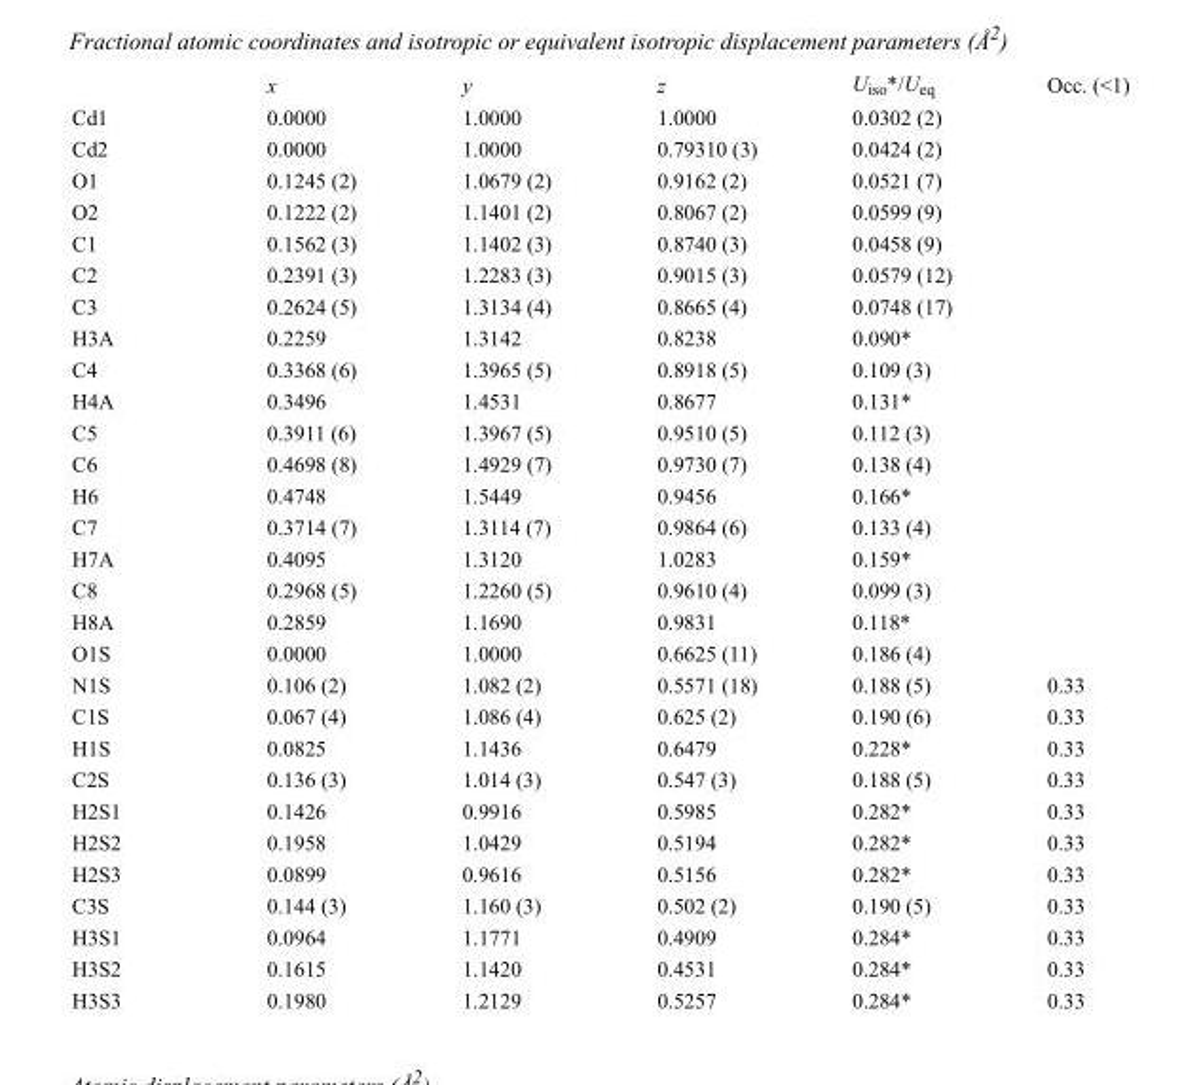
<table><thead><tr><td></td><td>x</td><td>y</td><td>z</td><td>U<sub>iso</sub>*/U<sub>eq</sub></td><td>Occ. (&lt;1)</td></tr></thead><tbody><tr><td>Cd1</td><td>0.0000</td><td>1.0000</td><td>1.0000</td><td>0.0302 (2)</td><td></td></tr><tr><td>Cd2</td><td>0.0000</td><td>1.0000</td><td>0.79310 (3)</td><td>0.0424 (2)</td><td></td></tr><tr><td>O1</td><td>0.1245 (2)</td><td>1.0679 (2)</td><td>0.9162 (2)</td><td>0.0521 (7)</td><td></td></tr><tr><td>O2</td><td>0.1222 (2)</td><td>1.1401 (2)</td><td>0.8067 (2)</td><td>0.0599 (9)</td><td></td></tr><tr><td>C1</td><td>0.1562 (3)</td><td>1.1402 (3)</td><td>0.8740 (3)</td><td>0.0458 (9)</td><td></td></tr><tr><td>C2</td><td>0.2391 (3)</td><td>1.2283 (3)</td><td>0.9015 (3)</td><td>0.0579 (12)</td><td></td></tr><tr><td>C3</td><td>0.2624 (5)</td><td>1.3134 (4)</td><td>0.8665 (4)</td><td>0.0748 (17)</td><td></td></tr><tr><td>H3A</td><td>0.2259</td><td>1.3142</td><td>0.8238</td><td>0.090*</td><td></td></tr><tr><td>C4</td><td>0.3368 (6)</td><td>1.3965 (5)</td><td>0.8918 (5)</td><td>0.109 (3)</td><td></td></tr><tr><td>H4A</td><td>0.3496</td><td>1.4531</td><td>0.8677</td><td>0.131*</td><td></td></tr><tr><td>C5</td><td>0.3911 (6)</td><td>1.3967 (5)</td><td>0.9510 (5)</td><td>0.112 (3)</td><td></td></tr><tr><td>C6</td><td>0.4698 (8)</td><td>1.4929 (7)</td><td>0.9730 (7)</td><td>0.138 (4)</td><td></td></tr><tr><td>H6</td><td>0.4748</td><td>1.5449</td><td>0.9456</td><td>0.166*</td><td></td></tr><tr><td>C7</td><td>0.3714 (7)</td><td>1.3114 (7)</td><td>0.9864 (6)</td><td>0.133 (4)</td><td></td></tr><tr><td>H7A</td><td>0.4095</td><td>1.3120</td><td>1.0283</td><td>0.159*</td><td></td></tr><tr><td>C8</td><td>0.2968 (5)</td><td>1.2260 (5)</td><td>0.9610 (4)</td><td>0.099 (3)</td><td></td></tr><tr><td>H8A</td><td>0.2859</td><td>1.1690</td><td>0.9831</td><td>0.118*</td><td></td></tr><tr><td>O1S</td><td>0.0000</td><td>1.0000</td><td>0.6625 (11)</td><td>0.186 (4)</td><td></td></tr><tr><td>N1S</td><td>0.106 (2)</td><td>1.082 (2)</td><td>0.5571 (18)</td><td>0.188 (5)</td><td>0.33</td></tr><tr><td>C1S</td><td>0.067 (4)</td><td>1.086 (4)</td><td>0.625 (2)</td><td>0.190 (6)</td><td>0.33</td></tr><tr><td>H1S</td><td>0.0825</td><td>1.1436</td><td>0.6479</td><td>0.228*</td><td>0.33</td></tr><tr><td>C2S</td><td>0.136 (3)</td><td>1.014 (3)</td><td>0.547 (3)</td><td>0.188 (5)</td><td>0.33</td></tr><tr><td>H2S1</td><td>0.1426</td><td>0.9916</td><td>0.5985</td><td>0.282*</td><td>0.33</td></tr><tr><td>H2S2</td><td>0.1958</td><td>1.0429</td><td>0.5194</td><td>0.282*</td><td>0.33</td></tr><tr><td>H2S3</td><td>0.0899</td><td>0.9616</td><td>0.5156</td><td>0.282*</td><td>0.33</td></tr><tr><td>C3S</td><td>0.144 (3)</td><td>1.160 (3)</td><td>0.502 (2)</td><td>0.190 (5)</td><td>0.33</td></tr><tr><td>H3S1</td><td>0.0964</td><td>1.1771</td><td>0.4909</td><td>0.284*</td><td>0.33</td></tr><tr><td>H3S2</td><td>0.1615</td><td>1.1420</td><td>0.4531</td><td>0.284*</td><td>0.33</td></tr><tr><td>H3S3</td><td>0.1980</td><td>1.2129</td><td>0.5257</td><td>0.284*</td><td>0.33</td></tr></tbody></table>